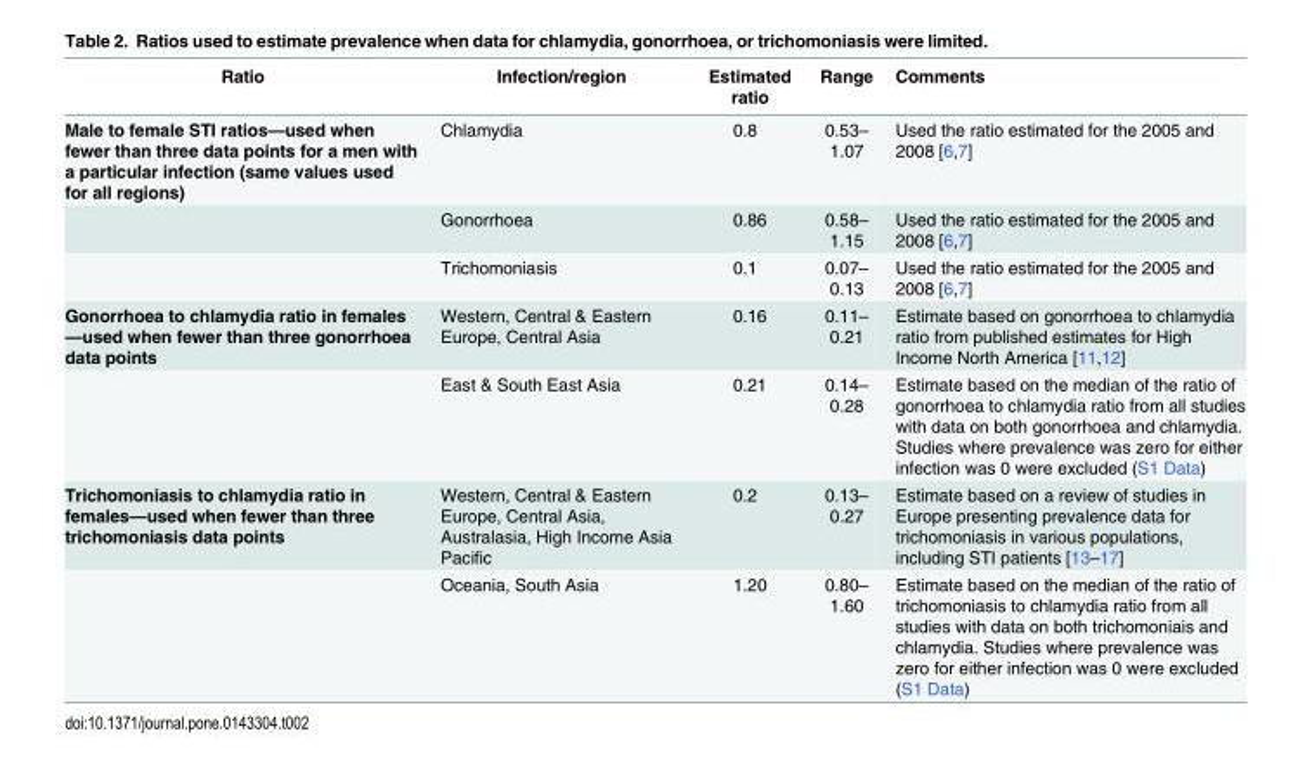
<table><thead><tr><td>Ratio</td><td>Infection/region</td><td>Estimated ratio</td><td>Range</td><td>Comments</td></tr></thead><tbody><tr><td rowspan="3">Male to female STI ratios—used when fewer than three data points for a men with a particular infection (same values used for all regions)</td><td>Chlamydia</td><td>0.8</td><td>0.53– 1.07</td><td>Used the ratio estimated for the 2005 and 2008 [6,7]</td></tr><tr><td>Gonorrhoea</td><td>0.86</td><td>0.58– 1.15</td><td>Used the ratio estimated for the 2005 and 2008 [6,7]</td></tr><tr><td>Trichomoniasis</td><td>0.1</td><td>0.07– 0.13</td><td>Used the ratio estimated for the 2005 and 2008 [6,7]</td></tr><tr><td rowspan="2">Gonorrhoea to chlamydia ratio in females —used when fewer than three gonorrhoea data points</td><td>Western, Central &amp; Eastern Europe, Central Asia</td><td>0.16</td><td>0.11– 0.21</td><td>Estimate based on gonorrhoea to chlamydia ratio from published estimates for High Income North America [11,12]</td></tr><tr><td>East &amp; South East Asia</td><td>0.21</td><td>0.14– 0.28</td><td>Estimate based on the median of the ratio of gonorrhoea to chlamydia ratio from all studies with data on both gonorrhoea and chlamydia. Studies where prevalence was zero for either infection was 0 were excluded (S1 Data)</td></tr><tr><td rowspan="2">Trichomoniasis to chlamydia ratio in females—used when fewer than three trichomoniasis data points</td><td>Western, Central &amp; Eastern Europe, Central Asia, Australasia, High Income Asia Pacific</td><td>0.2</td><td>0.13– 0.27</td><td>Estimate based on a review of studies in Europe presenting prevalence data for trichomoniasis in various populations, including STI patients [13–17]</td></tr><tr><td>Oceania, South Asia</td><td>1.20</td><td>0.80– 1.60</td><td>Estimate based on the median of the ratio of trichomoniasis to chlamydia ratio from all studies with data on both trichomoniais and chlamydia. Studies where prevalence was zero for either infection was 0 were excluded (S1 Data)</td></tr></tbody></table>